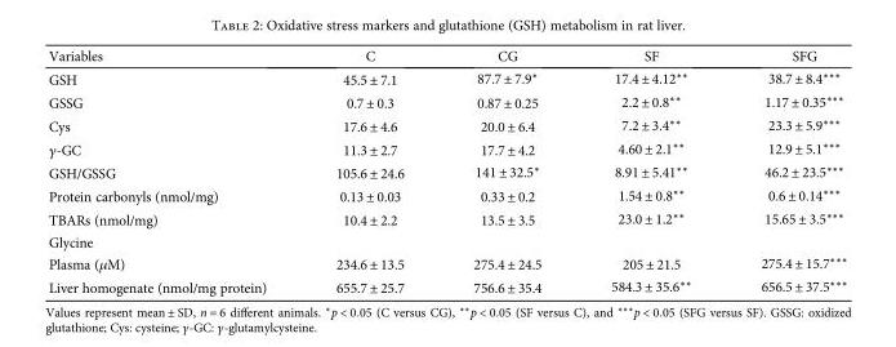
<table><thead><tr><td>Variables</td><td>C</td><td>CG</td><td>SF</td><td>SFG</td></tr></thead><tbody><tr><td>GSH</td><td>45.5 ± 7.1</td><td>87.7 ± 7.9∗</td><td>17.4 ± 4.12∗∗</td><td>38.7 ± 8.4∗∗∗</td></tr><tr><td>GSSG</td><td>0.7 ± 0.3</td><td>0.87 ± 0.25</td><td>2.2 ± 0.8∗∗</td><td>1.17 ± 0.35∗∗∗</td></tr><tr><td>Cys</td><td>17.6 ± 4.6</td><td>20.0 ± 6.4</td><td>7.2 ± 3.4∗∗</td><td>23.3 ± 5.9∗∗∗</td></tr><tr><td>γ-GC</td><td>11.3 ± 2.7</td><td>17.7 ± 4.2</td><td>4.60 ± 2.1∗∗</td><td>12.9 ± 5.1∗∗∗</td></tr><tr><td>GSH/GSSG</td><td>105.6 ± 24.6</td><td>141 ± 32.5∗</td><td>8.91 ± 5.41∗∗</td><td>46.2 ± 23.5∗∗∗</td></tr><tr><td>Protein carbonyls (nmol/mg)</td><td>0.13 ± 0.03</td><td>0.33 ± 0.2</td><td>1.54 ± 0.8∗∗</td><td>0.6 ± 0.14∗∗∗</td></tr><tr><td>TBARs (nmol/mg)</td><td>10.4 ± 2.2</td><td>13.5 ± 3.5</td><td>23.0 ± 1.2∗∗</td><td>15.65 ± 3.5∗∗∗</td></tr><tr><td colspan="5">Glycine</td></tr><tr><td>Plasma (μM)</td><td>234.6 ± 13.5</td><td>275.4 ± 24.5</td><td>205 ± 21.5</td><td>275.4 ± 15.7∗∗∗</td></tr><tr><td>Liver homogenate (nmol/mg protein)</td><td>655.7 ± 25.7</td><td>756.6 ± 35.4</td><td>584.3 ± 35.6∗∗</td><td>656.5 ± 37.5∗∗∗</td></tr></tbody></table>